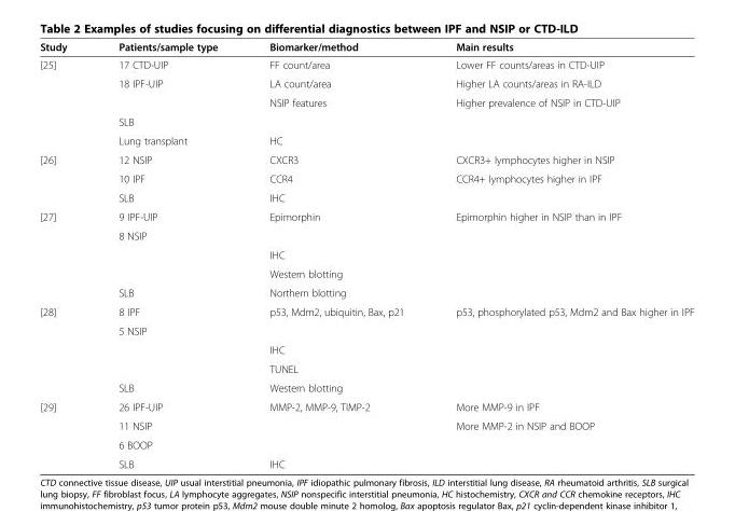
<table><thead><tr><td>Study</td><td>Patients/sample type</td><td>Biomarker/method</td><td>Main results</td></tr></thead><tbody><tr><td rowspan="5">[25]</td><td>17 CTD-UIP</td><td>FF count/area</td><td>Lower FF counts/areas in CTD-UIP</td></tr><tr><td>18 IPF-UIP</td><td>LA count/area</td><td>Higher LA counts/areas in RA-ILD</td></tr><tr><td></td><td>NSIP features</td><td rowspan="3">Higher prevalence of NSIP in CTD-UIP</td></tr><tr><td>SLB</td><td></td></tr><tr><td>Lung transplant</td><td>HC</td></tr><tr><td rowspan="3">[26]</td><td>12 NSIP</td><td>CXCR3</td><td>CXCR3+ lymphocytes higher in NSIP</td></tr><tr><td>10 IPF</td><td>CCR4</td><td rowspan="2">CCR4+ lymphocytes higher in IPF</td></tr><tr><td>SLB</td><td>IHC</td></tr><tr><td rowspan="5">[27]</td><td>9 IPF-UIP</td><td>Epimorphin</td><td rowspan="5">Epimorphin higher in NSIP than in IPF</td></tr><tr><td>8 NSIP</td><td></td></tr><tr><td></td><td>IHC</td></tr><tr><td></td><td>Western blotting</td></tr><tr><td>SLB</td><td>Northern blotting</td></tr><tr><td rowspan="5">[28]</td><td>8 IPF</td><td>p53, Mdm2, ubiquitin, Bax, p21</td><td rowspan="5">p53, phosphorylated p53, Mdm2 and Bax higher in IPF</td></tr><tr><td>5 NSIP</td><td></td></tr><tr><td></td><td>IHC</td></tr><tr><td></td><td>TUNEL</td></tr><tr><td>SLB</td><td>Western blotting</td></tr><tr><td rowspan="4">[29]</td><td>26 IPF-UIP</td><td>MMP-2, MMP-9, TIMP-2</td><td>More MMP-9 in IPF</td></tr><tr><td>11 NSIP</td><td></td><td rowspan="3">More MMP-2 in NSIP and BOOP</td></tr><tr><td>6 BOOP</td><td></td></tr><tr><td>SLB</td><td>IHC</td></tr></tbody></table>